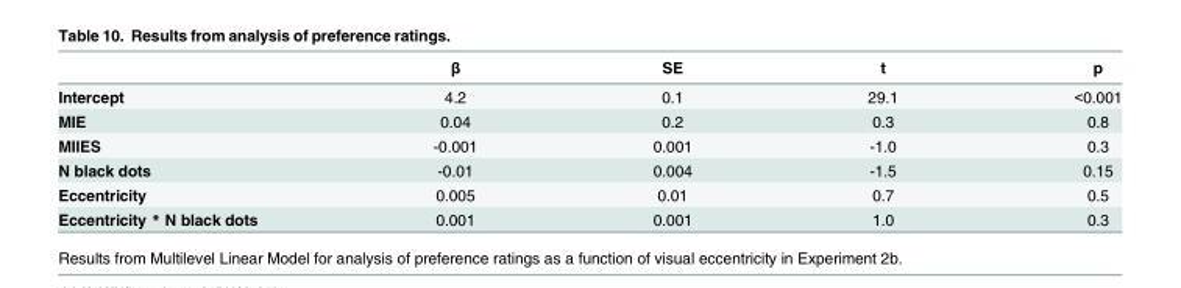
<table><thead><tr><td></td><td>β</td><td>SE</td><td>t</td><td>p</td></tr></thead><tbody><tr><td>Intercept</td><td>4.2</td><td>0.1</td><td>29.1</td><td>&lt;0.001</td></tr><tr><td>MIE</td><td>0.04</td><td>0.2</td><td>0.3</td><td>0.8</td></tr><tr><td>MIIES</td><td>-0.001</td><td>0.001</td><td>-1.0</td><td>0.3</td></tr><tr><td>N black dots</td><td>-0.01</td><td>0.004</td><td>-1.5</td><td>0.15</td></tr><tr><td>Eccentricity</td><td>0.005</td><td>0.01</td><td>0.7</td><td>0.5</td></tr><tr><td>Eccentricity * N black dots</td><td>0.001</td><td>0.001</td><td>1.0</td><td>0.3</td></tr></tbody></table>